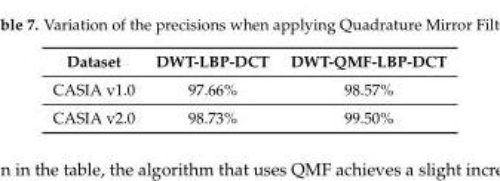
<table><thead><tr><td>Dataset</td><td>DWT-LBP-DCT</td><td>DWT-QMF-LBP-DCT</td></tr></thead><tbody><tr><td>CASIA v1.0</td><td>97.66%</td><td>98.57%</td></tr><tr><td>CASIA v2.0</td><td>98.73%</td><td>99.50%</td></tr></tbody></table>